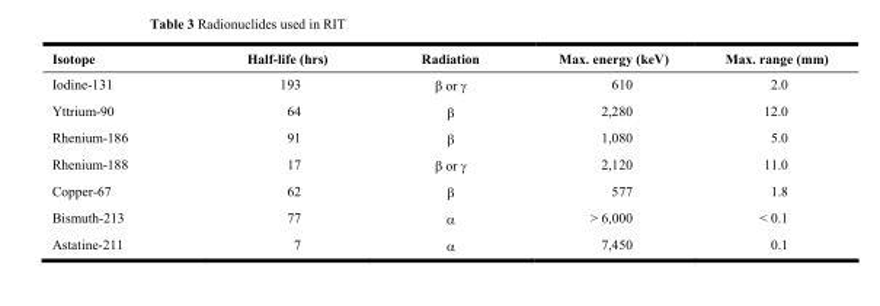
<table><thead><tr><td>Isotope</td><td>Half-life (hrs)</td><td>Radiation</td><td>Max. energy (keV)</td><td>Max. range (mm)</td></tr></thead><tbody><tr><td>Iodine-131</td><td>193</td><td>β or γ</td><td>610</td><td>2.0</td></tr><tr><td>Yttrium-90</td><td>64</td><td>β</td><td>2,280</td><td>12.0</td></tr><tr><td>Rhenium-186</td><td>91</td><td>β</td><td>1,080</td><td>5.0</td></tr><tr><td>Rhenium-188</td><td>17</td><td>β or γ</td><td>2,120</td><td>11.0</td></tr><tr><td>Copper-67</td><td>62</td><td>β</td><td>577</td><td>1.8</td></tr><tr><td>Bismuth-213</td><td>77</td><td>α</td><td>&gt; 6,000</td><td>&lt; 0.1</td></tr><tr><td>Astatine-211</td><td>7</td><td>α</td><td>7,450</td><td>0.1</td></tr></tbody></table>